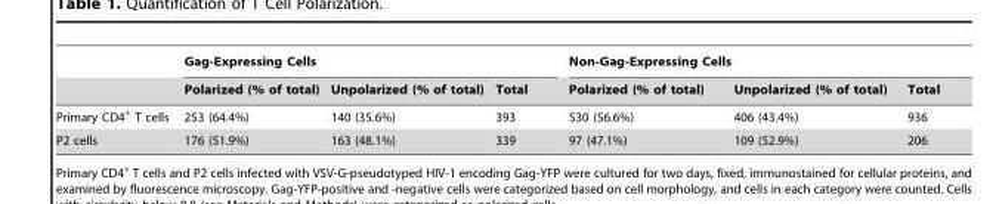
<table><thead><tr><td rowspan="2"></td><td colspan="3">Gag-Expressing Cells</td><td colspan="3">Non-Gag-Expressing Cells</td></tr><tr><td>Polarized (% of total)</td><td>Unpolarized (% of total)</td><td>Total</td><td>Polarized (% of total)</td><td>Unpolarized (% of total)</td><td>Total</td></tr></thead><tbody><tr><td>Primary CD4<sup>+</sup> T cells</td><td>253 (64.4%)</td><td>140 (35.6%)</td><td>393</td><td>530 (56.6%)</td><td>406 (43.4%)</td><td>936</td></tr><tr><td>P2 cells</td><td>176 (51.9%)</td><td>163 (48.1%)</td><td>339</td><td>97 (47.1%)</td><td>109 (52.9%)</td><td>206</td></tr></tbody></table>